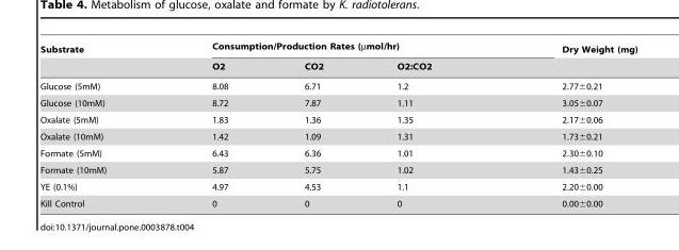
<table><thead><tr><td rowspan="2">Substrate</td><td colspan="3">Consumption/Production Rates (µmol/hr)</td><td rowspan="2">Dry Weight (mg)</td></tr><tr><td>O2</td><td>CO2</td><td>O2:CO2</td></tr></thead><tbody><tr><td>Glucose (5mM)</td><td>8.08</td><td>6.71</td><td>1.2</td><td>2.77±0.21</td></tr><tr><td>Glucose (10mM)</td><td>8.72</td><td>7.87</td><td>1.11</td><td>3.05±0.07</td></tr><tr><td>Oxalate (5mM)</td><td>1.83</td><td>1.36</td><td>1.35</td><td>2.17±0.06</td></tr><tr><td>Oxalate (10mM)</td><td>1.42</td><td>1.09</td><td>1.31</td><td>1.73±0.21</td></tr><tr><td>Formate (5mM)</td><td>6.43</td><td>6.36</td><td>1.01</td><td>2.30±0.10</td></tr><tr><td>Formate (10mM)</td><td>5.87</td><td>5.75</td><td>1.02</td><td>1.43±0.25</td></tr><tr><td>YE (0.1%)</td><td>4.97</td><td>4.53</td><td>1.1</td><td>2.20±0.00</td></tr><tr><td>Kill Control</td><td>0</td><td>0</td><td>0</td><td>0.00±0.00</td></tr></tbody></table>